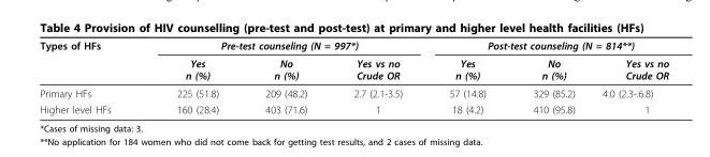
<table><tbody><tr><td rowspan="2">Types of HFs</td><td colspan="3">Pre-test counseling (N = 997*)</td><td colspan="3">Post-test counseling (N = 814**)</td></tr><tr><td>Yes n (%)</td><td>No n (%)</td><td>Yes vs no Crude OR</td><td>Yes n (%)</td><td>No n (%)</td><td>Yes vs no Crude OR</td></tr><tr><td>Primary HFs</td><td>225 (51.8)</td><td>209 (48.2)</td><td>2.7 (2.1-3.5)</td><td>57 (14.8)</td><td>329 (85.2)</td><td>4.0 (2.3-.6.8)</td></tr><tr><td>Higher level HFs</td><td>160 (28.4)</td><td>403 (71.6)</td><td>1</td><td>18 (4.2)</td><td>410 (95.8)</td><td>1</td></tr></tbody></table>